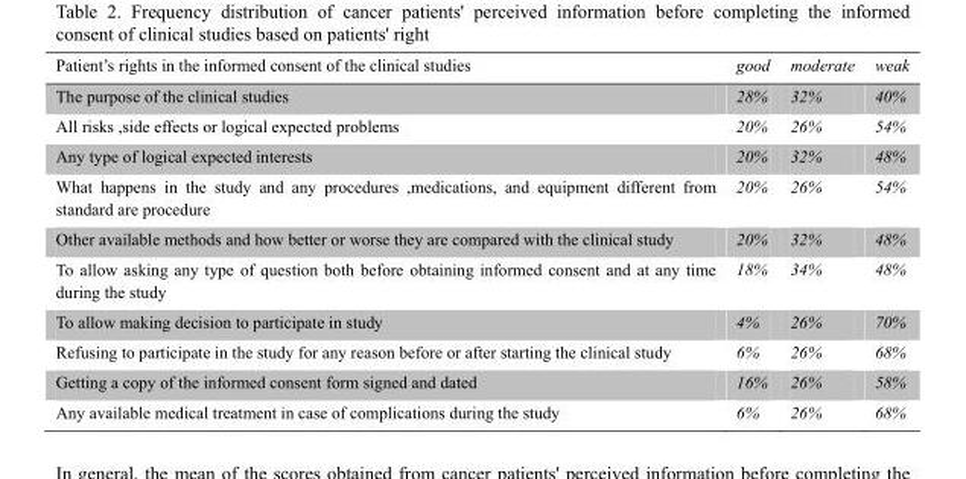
<table><thead><tr><td>Patient’s rights in the informed consent of the clinical studies</td><td>good</td><td>moderate</td><td>weak</td></tr></thead><tbody><tr><td>The purpose of the clinical studies</td><td>28%</td><td>32%</td><td>40%</td></tr><tr><td>All risks ,side effects or logical expected problems</td><td>20%</td><td>26%</td><td>54%</td></tr><tr><td>Any type of logical expected interests</td><td>20%</td><td>32%</td><td>48%</td></tr><tr><td>What happens in the study and any procedures ,medications, and equipment different from standard are procedure</td><td>20%</td><td>26%</td><td>54%</td></tr><tr><td>Other available methods and how better or worse they are compared with the clinical study</td><td>20%</td><td>32%</td><td>48%</td></tr><tr><td>To allow asking any type of question both before obtaining informed consent and at any time during the study</td><td>18%</td><td>34%</td><td>48%</td></tr><tr><td>To allow making decision to participate in study</td><td>4%</td><td>26%</td><td>70%</td></tr><tr><td>Refusing to participate in the study for any reason before or after starting the clinical study</td><td>6%</td><td>26%</td><td>68%</td></tr><tr><td>Getting a copy of the informed consent form signed and dated</td><td>16%</td><td>26%</td><td>58%</td></tr><tr><td>Any available medical treatment in case of complications during the study</td><td>6%</td><td>26%</td><td>68%</td></tr></tbody></table>